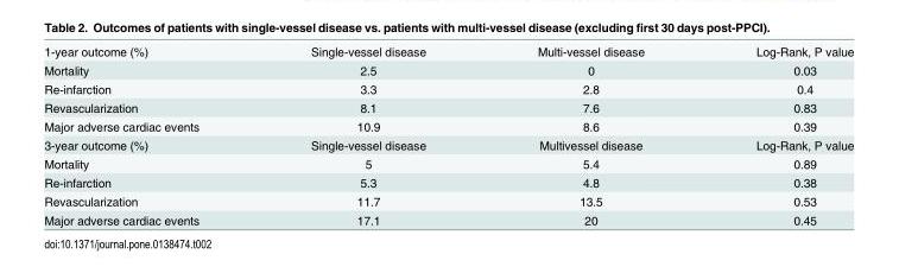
<table><tbody><tr><td>1-year outcome (%)</td><td>Single-vessel disease</td><td>Multi-vessel disease</td><td>Log-Rank, P value</td></tr><tr><td>Mortality</td><td>2.5</td><td>0</td><td>0.03</td></tr><tr><td>Re-infarction</td><td>3.3</td><td>2.8</td><td>0.4</td></tr><tr><td>Revascularization</td><td>8.1</td><td>7.6</td><td>0.83</td></tr><tr><td>Major adverse cardiac events</td><td>10.9</td><td>8.6</td><td>0.39</td></tr><tr><td>3-year outcome (%)</td><td>Single-vessel disease</td><td>Multivessel disease</td><td>Log-Rank, P value</td></tr><tr><td>Mortality</td><td>5</td><td>5.4</td><td>0.89</td></tr><tr><td>Re-infarction</td><td>5.3</td><td>4.8</td><td>0.38</td></tr><tr><td>Revascularization</td><td>11.7</td><td>13.5</td><td>0.53</td></tr><tr><td>Major adverse cardiac events</td><td>17.1</td><td>20</td><td>0.45</td></tr></tbody></table>